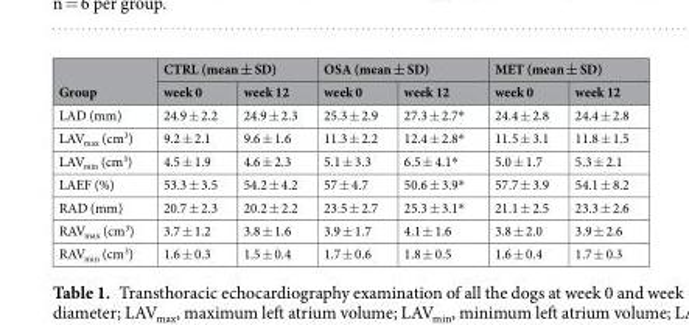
<table><thead><tr><td rowspan="2">Group</td><td colspan="2">CTRL (mean ± SD)</td><td colspan="2">OSA (mean ± SD)</td><td colspan="2">MET (mean ± SD)</td></tr><tr><td>week 0</td><td>week 12</td><td>week 0</td><td>week 12</td><td>week 0</td><td>week 12</td></tr></thead><tbody><tr><td>LAD (mm)</td><td>24.9 ± 2.2</td><td>24.9 ± 2.3</td><td>25.3 ± 2.9</td><td>27.3 ± 2.7*</td><td>24.4 ± 2.8</td><td>24.4 ± 2.8</td></tr><tr><td>LAV<sub>max</sub> (cm<sup>3</sup>)</td><td>9.2 ± 2.1</td><td>9.6 ± 1.6</td><td>11.3 ± 2.2</td><td>12.4 ± 2.8*</td><td>11.5 ± 3.1</td><td>11.8 ± 1.5</td></tr><tr><td>LAV<sub>min</sub> (cm<sup>3</sup>)</td><td>4.5 ± 1.9</td><td>4.6 ± 2.3</td><td>5.1 ± 3.3</td><td>6.5 ± 4.1*</td><td>5.0 ± 1.7</td><td>5.3 ± 2.1</td></tr><tr><td>LAEF (%)</td><td>53.3 ± 3.5</td><td>54.2 ± 4.2</td><td>57 ± 4.7</td><td>50.6 ± 3.9*</td><td>57.7 ± 3.9</td><td>54.1 ± 8.2</td></tr><tr><td>RAD (mm)</td><td>20.7 ± 2.3</td><td>20.2 ± 2.2</td><td>23.5 ± 2.7</td><td>25.3 ± 3.1*</td><td>21.1 ± 2.5</td><td>23.3 ± 2.6</td></tr><tr><td>RAV<sub>max</sub> (cm<sup>3</sup>)</td><td>3.7 ± 1.2</td><td>3.8 ± 1.6</td><td>3.9 ± 1.7</td><td>4.1 ± 1.6</td><td>3.8 ± 2.0</td><td>3.9 ± 2.6</td></tr><tr><td>RAV<sub>min</sub> (cm<sup>3</sup>)</td><td>1.6 ± 0.3</td><td>1.5 ± 0.4</td><td>1.7 ± 0.6</td><td>1.8 ± 0.5</td><td>1.6 ± 0.4</td><td>1.7 ± 0.3</td></tr></tbody></table>